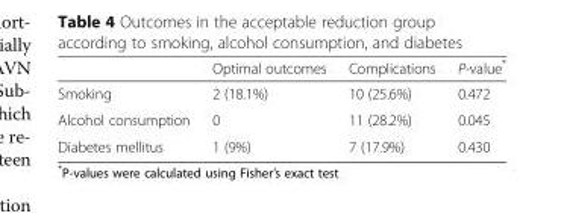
<table><thead><tr><td></td><td>Optimal outcomes</td><td>Complications</td><td>P-value*</td></tr></thead><tbody><tr><td>Smoking</td><td>2 (18.1%)</td><td>10 (25.6%)</td><td>0.472</td></tr><tr><td>Alcohol consumption</td><td>0</td><td>11 (28.2%)</td><td>0.045</td></tr><tr><td>Diabetes mellitus</td><td>1 (9%)</td><td>7 (17.9%)</td><td>0.430</td></tr></tbody></table>